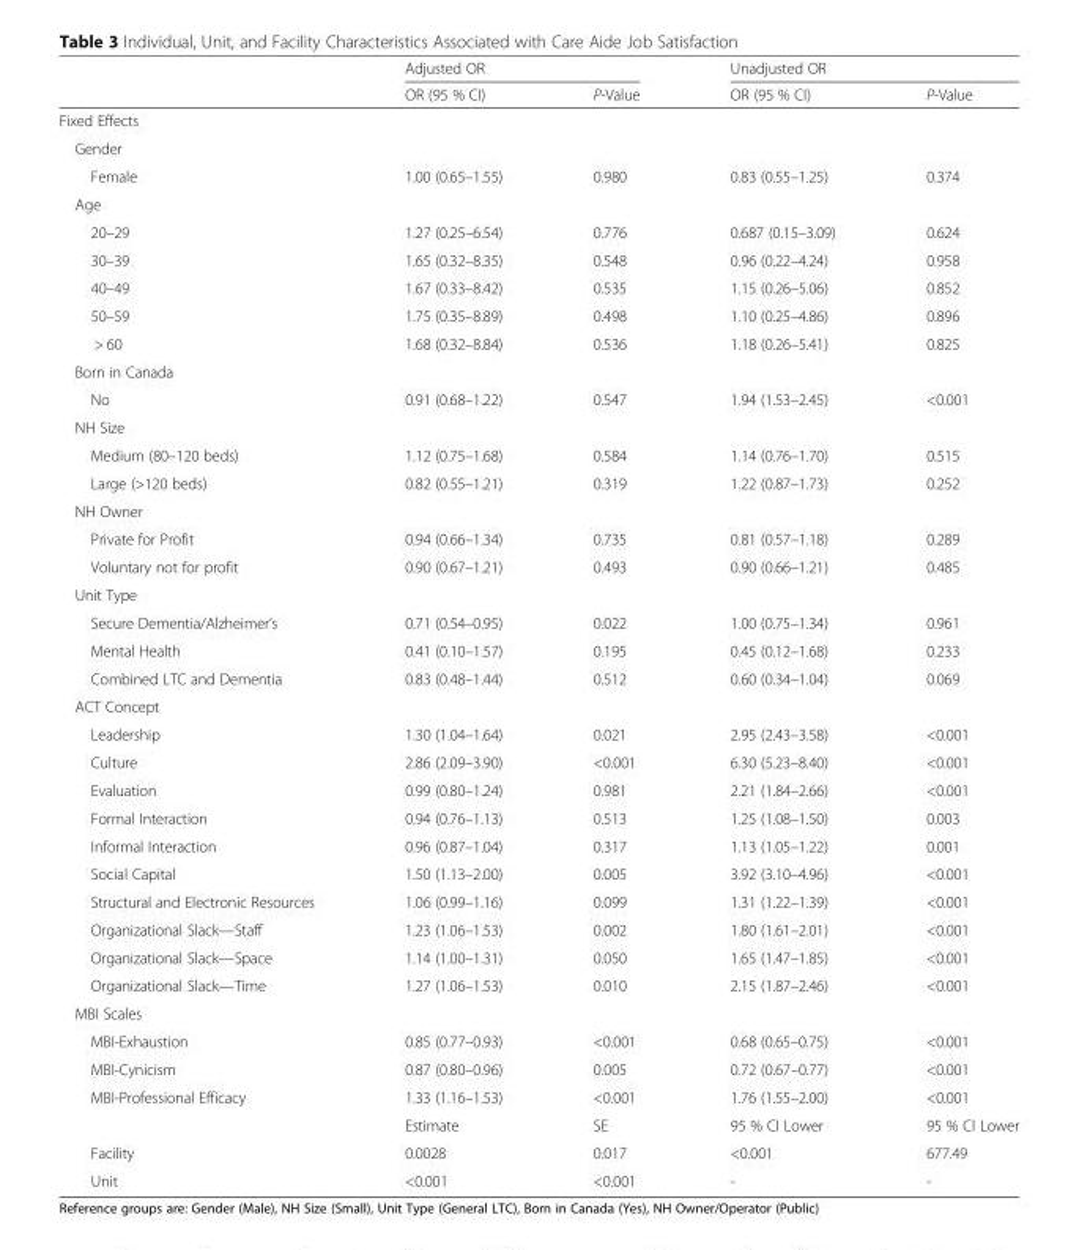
<table><thead><tr><td rowspan="2"></td><td colspan="2">Adjusted OR</td><td colspan="2">Unadjusted OR</td></tr><tr><td>OR (95 % CI)</td><td>P-Value</td><td>OR (95 % CI)</td><td>P-Value</td></tr></thead><tbody><tr><td colspan="5">Fixed Effects</td></tr><tr><td colspan="5">Gender</td></tr><tr><td>Female</td><td>1.00 (0.65–1.55)</td><td>0.980</td><td>0.83 (0.55–1.25)</td><td>0.374</td></tr><tr><td colspan="5">Age</td></tr><tr><td>20–29</td><td>1.27 (0.25–6.54)</td><td>0.776</td><td>0.687 (0.15–3.09)</td><td>0.624</td></tr><tr><td>30–39</td><td>1.65 (0.32–8.35)</td><td>0.548</td><td>0.96 (0.22–4.24)</td><td>0.958</td></tr><tr><td>40–49</td><td>1.67 (0.33–8.42)</td><td>0.535</td><td>1.15 (0.26–5.06)</td><td>0.852</td></tr><tr><td>50–59</td><td>1.75 (0.35–8.89)</td><td>0.498</td><td>1.10 (0.25–4.86)</td><td>0.896</td></tr><tr><td>&gt; 60</td><td>1.68 (0.32–8.84)</td><td>0.536</td><td>1.18 (0.26–5.41)</td><td>0.825</td></tr><tr><td colspan="5">Born in Canada</td></tr><tr><td>No</td><td>0.91 (0.68–1.22)</td><td>0.547</td><td>1.94 (1.53–2.45)</td><td>&lt;0.001</td></tr><tr><td colspan="5">NH Size</td></tr><tr><td>Medium (80–120 beds)</td><td>1.12 (0.75–1.68)</td><td>0.584</td><td>1.14 (0.76–1.70)</td><td>0.515</td></tr><tr><td>Large (&gt;120 beds)</td><td>0.82 (0.55–1.21)</td><td>0.319</td><td>1.22 (0.87–1.73)</td><td>0.252</td></tr><tr><td colspan="5">NH Owner</td></tr><tr><td>Private for Profit</td><td>0.94 (0.66–1.34)</td><td>0.735</td><td>0.81 (0.57–1.18)</td><td>0.289</td></tr><tr><td>Voluntary not for profit</td><td>0.90 (0.67–1.21)</td><td>0.493</td><td>0.90 (0.66–1.21)</td><td>0.485</td></tr><tr><td colspan="5">Unit Type</td></tr><tr><td>Secure Dementia/Alzheimer’s</td><td>0.71 (0.54–0.95)</td><td>0.022</td><td>1.00 (0.75–1.34)</td><td>0.961</td></tr><tr><td>Mental Health</td><td>0.41 (0.10–1.57)</td><td>0.195</td><td>0.45 (0.12–1.68)</td><td>0.233</td></tr><tr><td>Combined LTC and Dementia</td><td>0.83 (0.48–1.44)</td><td>0.512</td><td>0.60 (0.34–1.04)</td><td>0.069</td></tr><tr><td colspan="5">ACT Concept</td></tr><tr><td>Leadership</td><td>1.30 (1.04–1.64)</td><td>0.021</td><td>2.95 (2.43–3.58)</td><td>&lt;0.001</td></tr><tr><td>Culture</td><td>2.86 (2.09–3.90)</td><td>&lt;0.001</td><td>6.30 (5.23–8.40)</td><td>&lt;0.001</td></tr><tr><td>Evaluation</td><td>0.99 (0.80–1.24)</td><td>0.981</td><td>2.21 (1.84–2.66)</td><td>&lt;0.001</td></tr><tr><td>Formal Interaction</td><td>0.94 (0.76–1.13)</td><td>0.513</td><td>1.25 (1.08–1.50)</td><td>0.003</td></tr><tr><td>Informal Interaction</td><td>0.96 (0.87–1.04)</td><td>0.317</td><td>1.13 (1.05–1.22)</td><td>0.001</td></tr><tr><td>Social Capital</td><td>1.50 (1.13–2.00)</td><td>0.005</td><td>3.92 (3.10–4.96)</td><td>&lt;0.001</td></tr><tr><td>Structural and Electronic Resources</td><td>1.06 (0.99–1.16)</td><td>0.099</td><td>1.31 (1.22–1.39)</td><td>&lt;0.001</td></tr><tr><td>Organizational Slack—Staff</td><td>1.23 (1.06–1.53)</td><td>0.002</td><td>1.80 (1.61–2.01)</td><td>&lt;0.001</td></tr><tr><td>Organizational Slack—Space</td><td>1.14 (1.00–1.31)</td><td>0.050</td><td>1.65 (1.47–1.85)</td><td>&lt;0.001</td></tr><tr><td>Organizational Slack—Time</td><td>1.27 (1.06–1.53)</td><td>0.010</td><td>2.15 (1.87–2.46)</td><td>&lt;0.001</td></tr><tr><td colspan="5">MBI Scales</td></tr><tr><td>MBI-Exhaustion</td><td>0.85 (0.77–0.93)</td><td>&lt;0.001</td><td>0.68 (0.65–0.75)</td><td>&lt;0.001</td></tr><tr><td>MBI-Cynicism</td><td>0.87 (0.80–0.96)</td><td>0.005</td><td>0.72 (0.67–0.77)</td><td>&lt;0.001</td></tr><tr><td rowspan="2">MBI-Professional Efficacy</td><td>1.33 (1.16–1.53)</td><td>&lt;0.001</td><td>1.76 (1.55–2.00)</td><td>&lt;0.001</td></tr><tr><td>Estimate</td><td>SE</td><td>95 % CI Lower</td><td>95 % CI Lower</td></tr><tr><td>Facility</td><td>0.0028</td><td>0.017</td><td>&lt;0.001</td><td>677.49</td></tr><tr><td>Unit</td><td>&lt;0.001</td><td>&lt;0.001</td><td>-</td><td>-</td></tr></tbody></table>